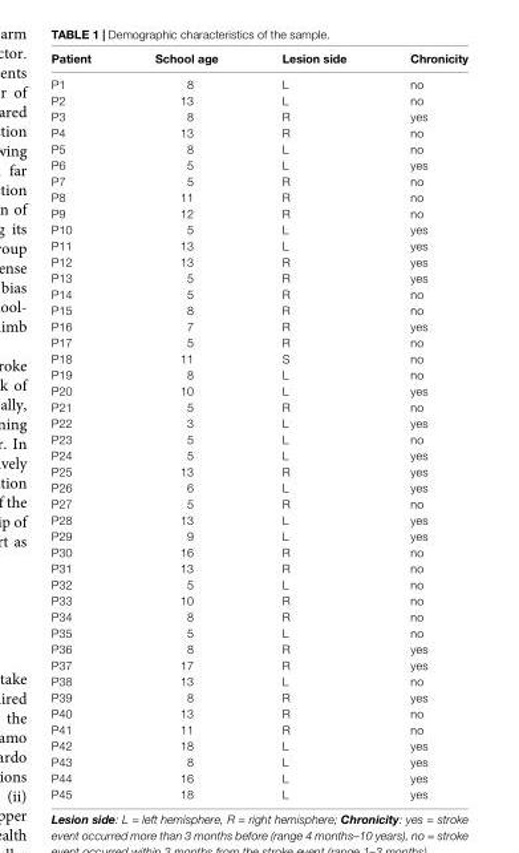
<table><thead><tr><td>Patient</td><td>School age</td><td>Lesion side</td><td>Chronicity</td></tr></thead><tbody><tr><td>P1</td><td>8</td><td>L</td><td>no</td></tr><tr><td>P2</td><td>13</td><td>L</td><td>no</td></tr><tr><td>P3</td><td>8</td><td>R</td><td>yes</td></tr><tr><td>P4</td><td>13</td><td>R</td><td>no</td></tr><tr><td>P5</td><td>8</td><td>L</td><td>no</td></tr><tr><td>P6</td><td>5</td><td>L</td><td>yes</td></tr><tr><td>P7</td><td>5</td><td>R</td><td>no</td></tr><tr><td>P8</td><td>11</td><td>R</td><td>no</td></tr><tr><td>P9</td><td>12</td><td>R</td><td>no</td></tr><tr><td>P10</td><td>5</td><td>L</td><td>yes</td></tr><tr><td>P11</td><td>13</td><td>L</td><td>yes</td></tr><tr><td>P12</td><td>13</td><td>R</td><td>yes</td></tr><tr><td>P13</td><td>5</td><td>R</td><td>yes</td></tr><tr><td>P14</td><td>5</td><td>R</td><td>no</td></tr><tr><td>P15</td><td>8</td><td>R</td><td>no</td></tr><tr><td>P16</td><td>7</td><td>R</td><td>yes</td></tr><tr><td>P17</td><td>5</td><td>R</td><td>no</td></tr><tr><td>P18</td><td>11</td><td>S</td><td>no</td></tr><tr><td>P19</td><td>8</td><td>L</td><td>no</td></tr><tr><td>P20</td><td>10</td><td>L</td><td>yes</td></tr><tr><td>P21</td><td>5</td><td>R</td><td>no</td></tr><tr><td>P22</td><td>3</td><td>L</td><td>yes</td></tr><tr><td>P23</td><td>5</td><td>L</td><td>no</td></tr><tr><td>P24</td><td>5</td><td>L</td><td>yes</td></tr><tr><td>P25</td><td>13</td><td>R</td><td>yes</td></tr><tr><td>P26</td><td>6</td><td>L</td><td>yes</td></tr><tr><td>P27</td><td>5</td><td>R</td><td>no</td></tr><tr><td>P28</td><td>13</td><td>L</td><td>yes</td></tr><tr><td>P29</td><td>9</td><td>L</td><td>yes</td></tr><tr><td>P30</td><td>16</td><td>R</td><td>no</td></tr><tr><td>P31</td><td>13</td><td>R</td><td>no</td></tr><tr><td>P32</td><td>5</td><td>L</td><td>no</td></tr><tr><td>P33</td><td>10</td><td>R</td><td>no</td></tr><tr><td>P34</td><td>8</td><td>R</td><td>no</td></tr><tr><td>P35</td><td>5</td><td>L</td><td>no</td></tr><tr><td>P36</td><td>8</td><td>R</td><td>yes</td></tr><tr><td>P37</td><td>17</td><td>R</td><td>yes</td></tr><tr><td>P38</td><td>13</td><td>L</td><td>no</td></tr><tr><td>P39</td><td>8</td><td>R</td><td>yes</td></tr><tr><td>P40</td><td>13</td><td>R</td><td>no</td></tr><tr><td>P41</td><td>11</td><td>R</td><td>no</td></tr><tr><td>P42</td><td>18</td><td>L</td><td>yes</td></tr><tr><td>P43</td><td>8</td><td>L</td><td>yes</td></tr><tr><td>P44</td><td>16</td><td>L</td><td>yes</td></tr><tr><td>P45</td><td>18</td><td>L</td><td>yes</td></tr></tbody></table>